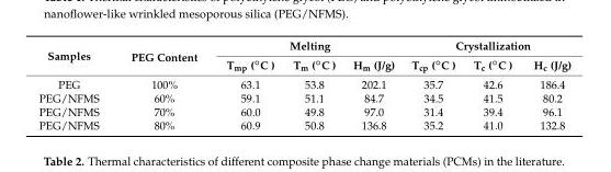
<table><thead><tr><td rowspan="2">Samples</td><td rowspan="2">PEG Content</td><td colspan="3">Melting</td><td colspan="3">Crystallization</td></tr><tr><td>Tmp (◦C )</td><td>Tm (◦C )</td><td>H<sub>m</sub> (J/g)</td><td>Tcp (◦C )</td><td>Tc (◦C )</td><td>H<sub>c</sub> (J/g)</td></tr></thead><tbody><tr><td>PEG</td><td>100%</td><td>63.1</td><td>53.8</td><td>202.1</td><td>35.7</td><td>42.6</td><td>186.4</td></tr><tr><td>PEG/NFMS</td><td>60%</td><td>59.1</td><td>51.1</td><td>84.7</td><td>34.5</td><td>41.5</td><td>80.2</td></tr><tr><td>PEG/NFMS</td><td>70%</td><td>60.0</td><td>49.8</td><td>97.0</td><td>31.4</td><td>39.4</td><td>96.1</td></tr><tr><td>PEG/NFMS</td><td>80%</td><td>60.9</td><td>50.8</td><td>136.8</td><td>35.2</td><td>41.0</td><td>132.8</td></tr></tbody></table>